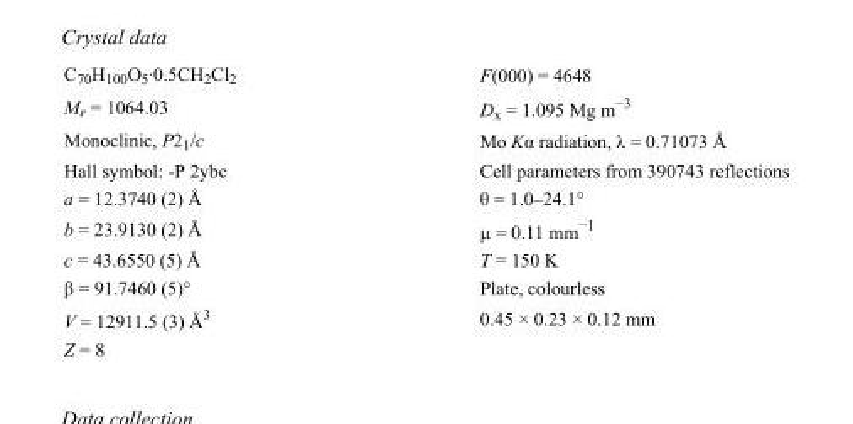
<table><tbody><tr><td>C<sub>70</sub>H<sub>100</sub>O<sub>5</sub>·0.5CH<sub>2</sub>Cl<sub>2</sub></td><td>F(000) = 4648</td></tr><tr><td>M<sub>r</sub> = 1064.03</td><td>D<sub>x</sub> = 1.095 Mg m<sup>−3</sup></td></tr><tr><td>Monoclinic, P2<sub>1</sub>/c</td><td>Mo Kα radiation, λ = 0.71073 Å</td></tr><tr><td>Hall symbol: -P 2ybc</td><td>Cell parameters from 390743 reflections</td></tr><tr><td>a = 12.3740 (2) Å</td><td>θ = 1.0–24.1°</td></tr><tr><td>b = 23.9130 (2) Å</td><td>µ = 0.11 mm<sup>−1</sup></td></tr><tr><td>c = 43.6550 (5) Å</td><td>T = 150 K</td></tr><tr><td>β = 91.7460 (5)°</td><td>Plate, colourless</td></tr><tr><td>V = 12911.5 (3) Å<sup>3</sup></td><td>0.45 × 0.23 × 0.12 mm</td></tr><tr><td>Z = 8</td><td></td></tr></tbody></table>